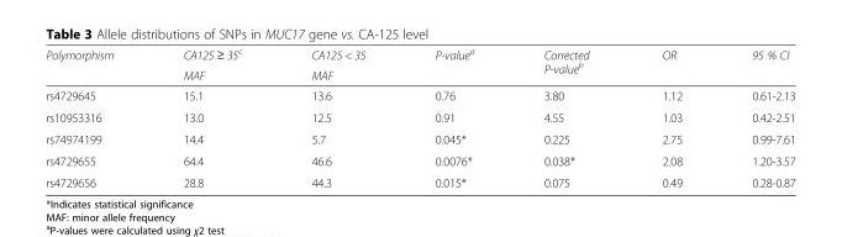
<table><thead><tr><td rowspan="2">Polymorphism</td><td rowspan="2">CA125 ≥ 35<sup>c</sup> MAF</td><td rowspan="2">CA125 &lt; 35 MAF</td><td rowspan="2">P-value<sup>a</sup></td><td rowspan="2">Corrected P-value<sup>b</sup></td><td rowspan="2">OR</td><td rowspan="2">95 % CI</td></tr><tr></tr></thead><tbody><tr><td>rs4729645</td><td>15.1</td><td>13.6</td><td>0.76</td><td>3.80</td><td>1.12</td><td>0.61-2.13</td></tr><tr><td>rs10953316</td><td>13.0</td><td>12.5</td><td>0.91</td><td>4.55</td><td>1.03</td><td>0.42-2.51</td></tr><tr><td>rs74974199</td><td>14.4</td><td>5.7</td><td>0.045*</td><td>0.225</td><td>2.75</td><td>0.99-7.61</td></tr><tr><td>rs4729655</td><td>64.4</td><td>46.6</td><td>0.0076*</td><td>0.038*</td><td>2.08</td><td>1.20-3.57</td></tr><tr><td>rs4729656</td><td>28.8</td><td>44.3</td><td>0.015*</td><td>0.075</td><td>0.49</td><td>0.28-0.87</td></tr></tbody></table>